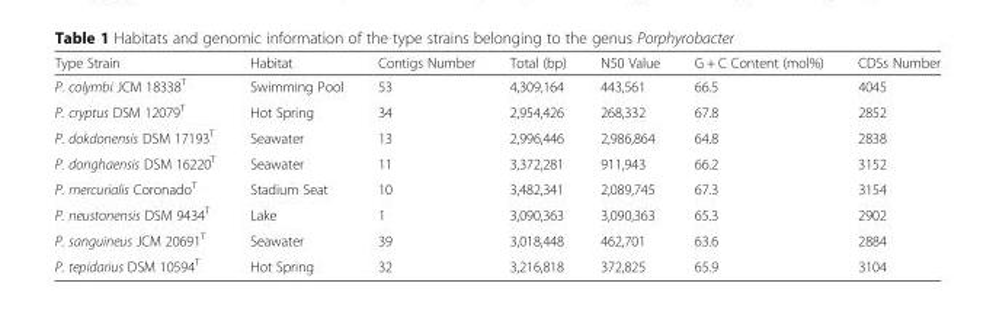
<table><thead><tr><td>Type Strain</td><td>Habitat</td><td>Contigs Number</td><td>Total (bp)</td><td>N50 Value</td><td>G + C Content (mol%)</td><td>CDSs Number</td></tr></thead><tbody><tr><td>P. colymbi JCM 18338<sup>T</sup></td><td>Swimming Pool</td><td>53</td><td>4,309,164</td><td>443,561</td><td>66.5</td><td>4045</td></tr><tr><td>P. cryptus DSM 12079<sup>T</sup></td><td>Hot Spring</td><td>34</td><td>2,954,426</td><td>268,332</td><td>67.8</td><td>2852</td></tr><tr><td>P. dokdonensis DSM 17193<sup>T</sup></td><td>Seawater</td><td>13</td><td>2,996,446</td><td>2,986,864</td><td>64.8</td><td>2838</td></tr><tr><td>P. donghaensis DSM 16220<sup>T</sup></td><td>Seawater</td><td>11</td><td>3,372,281</td><td>911,943</td><td>66.2</td><td>3152</td></tr><tr><td>P. mercurialis Coronado<sup>T</sup></td><td>Stadium Seat</td><td>10</td><td>3,482,341</td><td>2,089,745</td><td>67.3</td><td>3154</td></tr><tr><td>P. neustonensis DSM 9434<sup>T</sup></td><td>Lake</td><td>1</td><td>3,090,363</td><td>3,090,363</td><td>65.3</td><td>2902</td></tr><tr><td>P. sanguineus JCM 20691<sup>T</sup></td><td>Seawater</td><td>39</td><td>3,018,448</td><td>462,701</td><td>63.6</td><td>2884</td></tr><tr><td>P. tepidarius DSM 10594<sup>T</sup></td><td>Hot Spring</td><td>32</td><td>3,216,818</td><td>372,825</td><td>65.9</td><td>3104</td></tr></tbody></table>